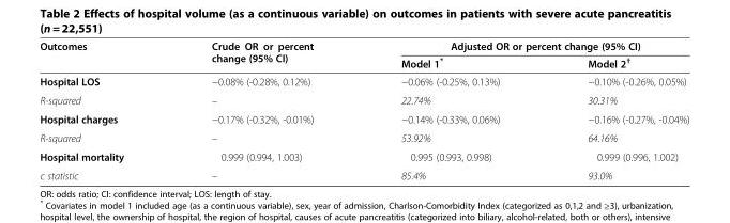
<table><thead><tr><td rowspan="2">Outcomes</td><td rowspan="2">Crude OR or percent change (95% CI)</td><td colspan="2">Adjusted OR or percent change (95% CI)</td></tr><tr><td>Model 1*</td><td>Model 2<sup>†</sup></td></tr></thead><tbody><tr><td>Hospital LOS</td><td>−0.08% (-0.28%, 0.12%)</td><td>−0.06% (-0.25%, 0.13%)</td><td>−0.10% (-0.26%, 0.05%)</td></tr><tr><td>R-squared</td><td>–</td><td>22.74%</td><td>30.31%</td></tr><tr><td>Hospital charges</td><td>−0.17% (-0.32%, -0.01%)</td><td>−0.14% (-0.33%, 0.06%)</td><td>−0.16% (-0.27%, -0.04%)</td></tr><tr><td>R-squared</td><td>–</td><td>53.92%</td><td>64.16%</td></tr><tr><td>Hospital mortality</td><td>0.999 (0.994, 1.003)</td><td>0.995 (0.993, 0.998)</td><td>0.999 (0.996, 1.002)</td></tr><tr><td>c statistic</td><td>–</td><td>85.4%</td><td>93.0%</td></tr></tbody></table>